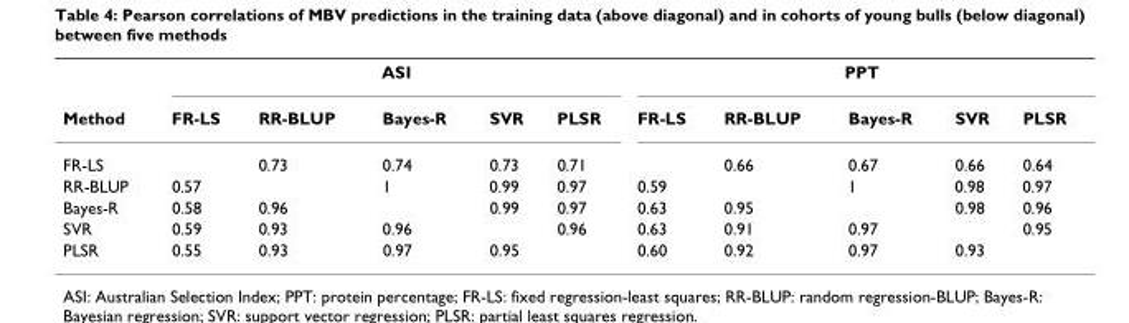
<table><thead><tr><td rowspan="2">Method</td><td colspan="5">ASI</td><td colspan="5">PPT</td></tr><tr><td>FR-LS</td><td>RR-BLUP</td><td>Bayes-R</td><td>SVR</td><td>PLSR</td><td>FR-LS</td><td>RR-BLUP</td><td>Bayes-R</td><td>SVR</td><td>PLSR</td></tr></thead><tbody><tr><td>FR-LS</td><td></td><td>0.73</td><td>0.74</td><td>0.73</td><td>0.71</td><td></td><td>0.66</td><td>0.67</td><td>0.66</td><td>0.64</td></tr><tr><td>RR-BLUP</td><td>0.57</td><td></td><td>1</td><td>0.99</td><td>0.97</td><td>0.59</td><td></td><td>1</td><td>0.98</td><td>0.97</td></tr><tr><td>Bayes-R</td><td>0.58</td><td>0.96</td><td></td><td>0.99</td><td>0.97</td><td>0.63</td><td>0.95</td><td></td><td>0.98</td><td>0.96</td></tr><tr><td>SVR</td><td>0.59</td><td>0.93</td><td>0.96</td><td></td><td>0.96</td><td>0.63</td><td>0.91</td><td>0.97</td><td></td><td>0.95</td></tr><tr><td>PLSR</td><td>0.55</td><td>0.93</td><td>0.97</td><td>0.95</td><td></td><td>0.60</td><td>0.92</td><td>0.97</td><td>0.93</td><td></td></tr></tbody></table>